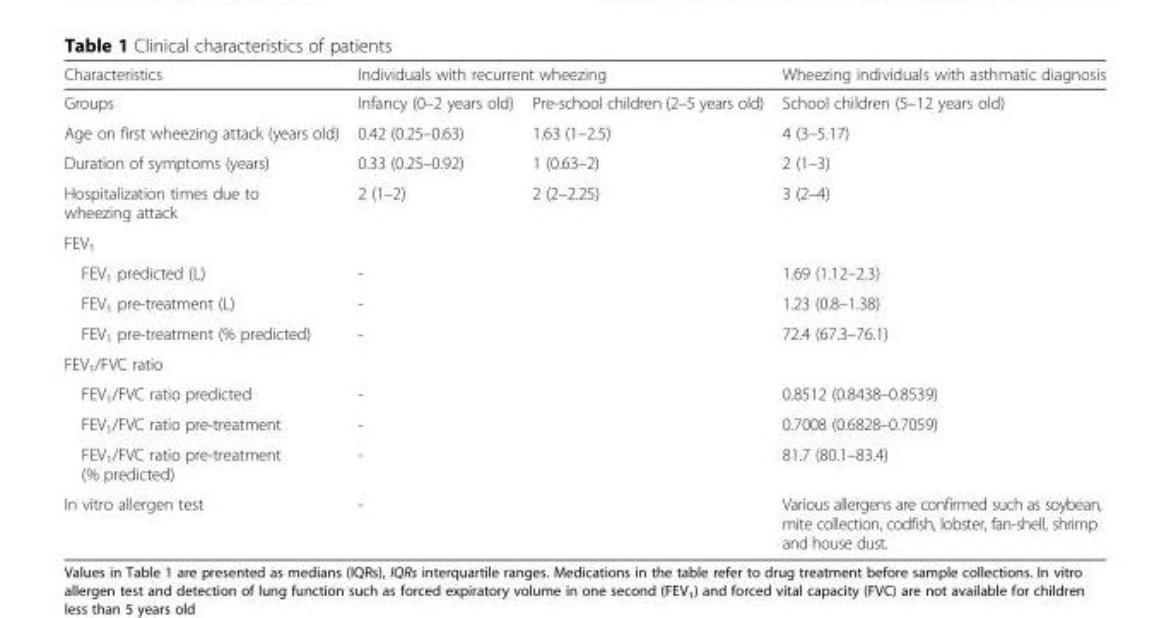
<table><thead><tr><td rowspan="2">Characteristics Groups</td><td colspan="2">Individuals with recurrent wheezing</td><td rowspan="2">Wheezing individuals with asthmatic diagnosis School children (5–12 years old)</td></tr><tr><td>Infancy (0–2 years old)</td><td>Pre-school children (2–5 years old)</td></tr></thead><tbody><tr><td>Age on first wheezing attack (years old)</td><td>0.42 (0.25–0.63)</td><td>1.63 (1–2.5)</td><td>4 (3–5.17)</td></tr><tr><td>Duration of symptoms (years)</td><td>0.33 (0.25–0.92)</td><td>1 (0.63–2)</td><td>2 (1–3)</td></tr><tr><td>Hospitalization times due to wheezing attack</td><td>2 (1–2)</td><td>2 (2–2.25)</td><td>3 (2–4)</td></tr><tr><td colspan="4">FEV<sub>1</sub></td></tr><tr><td>FEV<sub>1</sub> predicted (L)</td><td colspan="2">-</td><td>1.69 (1.12–2.3)</td></tr><tr><td>FEV<sub>1</sub> pre-treatment (L)</td><td colspan="2">-</td><td>1.23 (0.8–1.38)</td></tr><tr><td>FEV<sub>1</sub> pre-treatment (% predicted)</td><td colspan="2">-</td><td>72.4 (67.3–76.1)</td></tr><tr><td colspan="4">FEV<sub>1</sub>/FVC ratio</td></tr><tr><td>FEV<sub>1</sub>/FVC ratio predicted</td><td colspan="2">-</td><td>0.8512 (0.8438–0.8539)</td></tr><tr><td>FEV<sub>1</sub>/FVC ratio pre-treatment</td><td colspan="2">-</td><td>0.7008 (0.6828–0.7059)</td></tr><tr><td>FEV<sub>1</sub>/FVC ratio pre-treatment (% predicted)</td><td colspan="2">-</td><td>81.7 (80.1–83.4)</td></tr><tr><td>In vitro allergen test</td><td colspan="2">-</td><td>Various allergens are confirmed such as soybean, mite collection, codfish, lobster, fan-shell, shrimp and house dust.</td></tr></tbody></table>